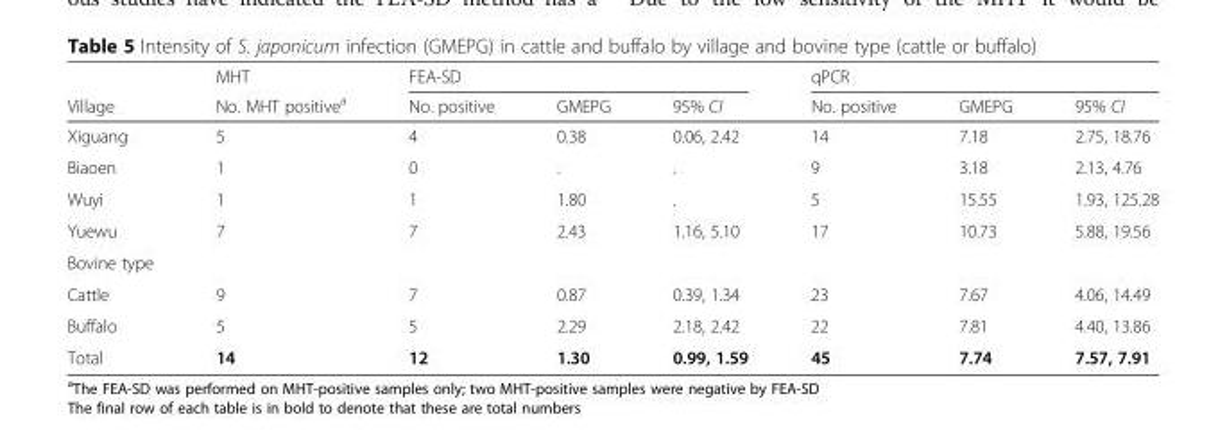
<table><thead><tr><td rowspan="2">Village</td><td rowspan="2">MHT No. MHT positive<sup>a</sup></td><td colspan="3">FEA-SD</td><td colspan="3">qPCR</td></tr><tr><td>No. positive</td><td>GMEPG</td><td>95% CI</td><td>No. positive</td><td>GMEPG</td><td>95% CI</td></tr></thead><tbody><tr><td>Xiguang</td><td>5</td><td>4</td><td>0.38</td><td>0.06, 2.42</td><td>14</td><td>7.18</td><td>2.75, 18.76</td></tr><tr><td>Biaoen</td><td>1</td><td>0</td><td>.</td><td>.</td><td>9</td><td>3.18</td><td>2.13, 4.76</td></tr><tr><td>Wuyi</td><td>1</td><td>1</td><td>1.80</td><td>.</td><td>5</td><td>15.55</td><td>1.93, 125.28</td></tr><tr><td>Yuewu</td><td>7</td><td>7</td><td>2.43</td><td>1.16, 5.10</td><td>17</td><td>10.73</td><td>5.88, 19.56</td></tr><tr><td colspan="8">Bovine type</td></tr><tr><td>Cattle</td><td>9</td><td>7</td><td>0.87</td><td>0.39, 1.34</td><td>23</td><td>7.67</td><td>4.06, 14.49</td></tr><tr><td>Buffalo</td><td>5</td><td>5</td><td>2.29</td><td>2.18, 2.42</td><td>22</td><td>7.81</td><td>4.40, 13.86</td></tr><tr><td>Total</td><td>14</td><td>12</td><td>1.30</td><td>0.99, 1.59</td><td>45</td><td>7.74</td><td>7.57, 7.91</td></tr></tbody></table>